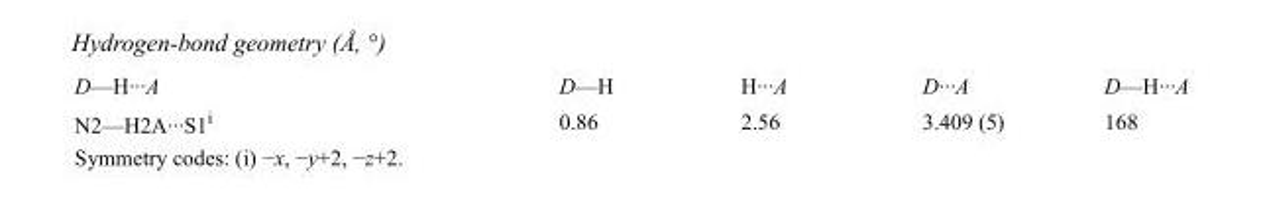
<table><tbody><tr><td>D—H···A</td><td>D—H</td><td>H···A</td><td>D···A</td><td>D—H···A</td></tr><tr><td>N2—H2A···S1<sup>i</sup></td><td>0.86</td><td>2.56</td><td>3.409 (5)</td><td>168</td></tr></tbody></table>